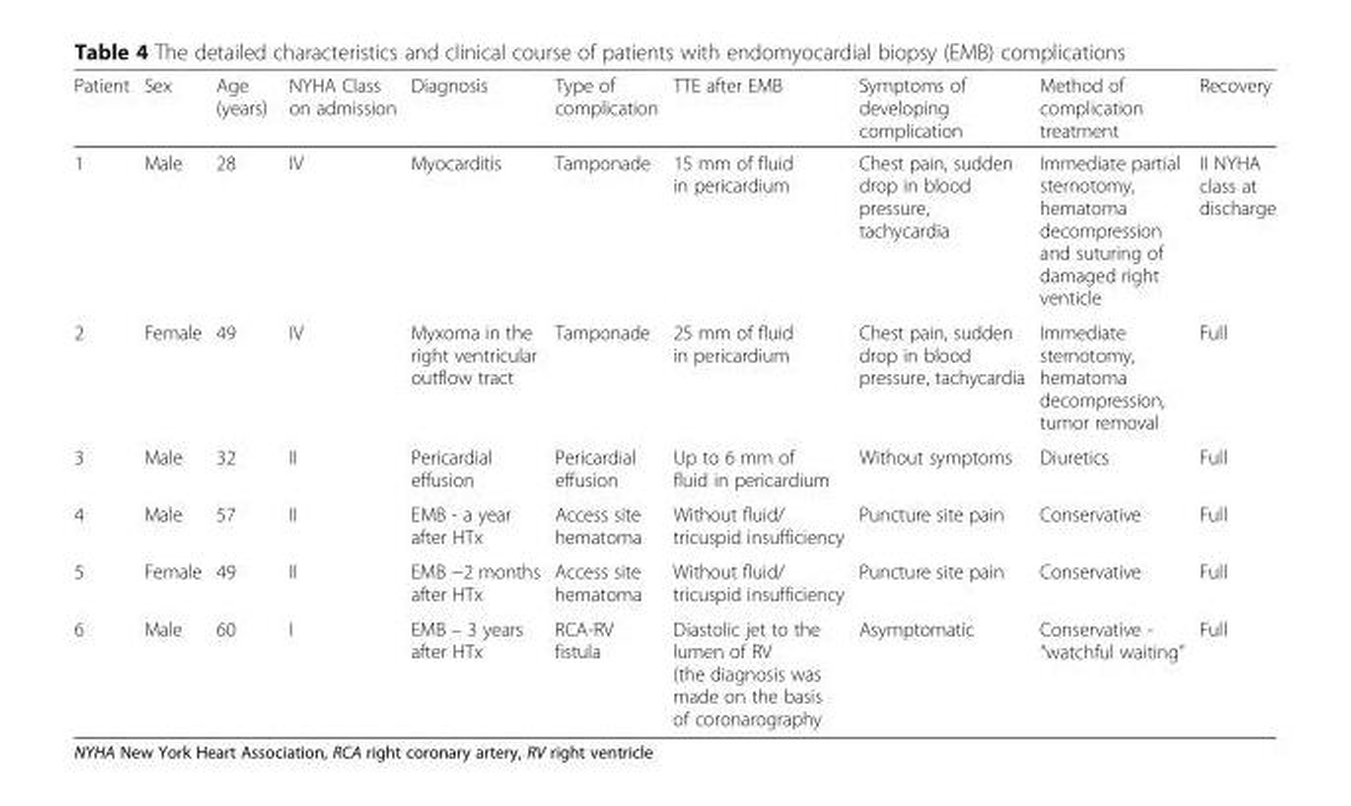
<table><thead><tr><td>Patient</td><td>Sex</td><td>Age (years)</td><td>NYHA Class on admission</td><td>Diagnosis</td><td>Type of complication</td><td>TTE after EMB</td><td>Symptoms of developing complication</td><td>Method of complication treatment</td><td>Recovery</td></tr></thead><tbody><tr><td>1</td><td>Male</td><td>28</td><td>IV</td><td>Myocarditis</td><td>Tamponade</td><td>15 mm of fluid in pericardium</td><td>Chest pain, sudden drop in blood pressure, tachycardia</td><td>Immediate partial sternotomy, hematoma decompression and suturing of damaged right venticle</td><td>II NYHA class at discharge</td></tr><tr><td>2</td><td>Female</td><td>49</td><td>IV</td><td>Myxoma in the right ventricular outflow tract</td><td>Tamponade</td><td>25 mm of fluid in pericardium</td><td>Chest pain, sudden drop in blood pressure, tachycardia</td><td>Immediate sternotomy, hematoma decompression, tumor removal</td><td>Full</td></tr><tr><td>3</td><td>Male</td><td>32</td><td>II</td><td>Pericardial effusion</td><td>Pericardial effusion</td><td>Up to 6 mm of fluid in pericardium</td><td>Without symptoms</td><td>Diuretics</td><td>Full</td></tr><tr><td>4</td><td>Male</td><td>57</td><td>II</td><td>EMB - a year after HTx</td><td>Access site hematoma</td><td>Without fluid/ tricuspid insufficiency</td><td>Puncture site pain</td><td>Conservative</td><td>Full</td></tr><tr><td>5</td><td>Female</td><td>49</td><td>II</td><td>EMB −2 months after HTx</td><td>Access site hematoma</td><td>Without fluid/ tricuspid insufficiency</td><td>Puncture site pain</td><td>Conservative</td><td>Full</td></tr><tr><td>6</td><td>Male</td><td>60</td><td>I</td><td>EMB – 3 years after HTx</td><td>RCA-RV fistula</td><td>Diastolic jet to the lumen of RV (the diagnosis was made on the basis of coronarography</td><td>Asymptomatic</td><td>Conservative - “watchful waiting”</td><td>Full</td></tr></tbody></table>